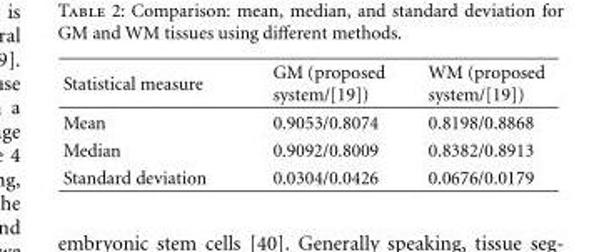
<table><thead><tr><td>Statistical measure</td><td>GM (proposed system/[19])</td><td>WM (proposed system/[19])</td></tr></thead><tbody><tr><td>Mean</td><td>0.9053/0.8074</td><td>0.8198/0.8868</td></tr><tr><td>Median</td><td>0.9092/0.8009</td><td>0.8382/0.8913</td></tr><tr><td>Standard deviation</td><td>0.0304/0.0426</td><td>0.0676/0.0179</td></tr></tbody></table>